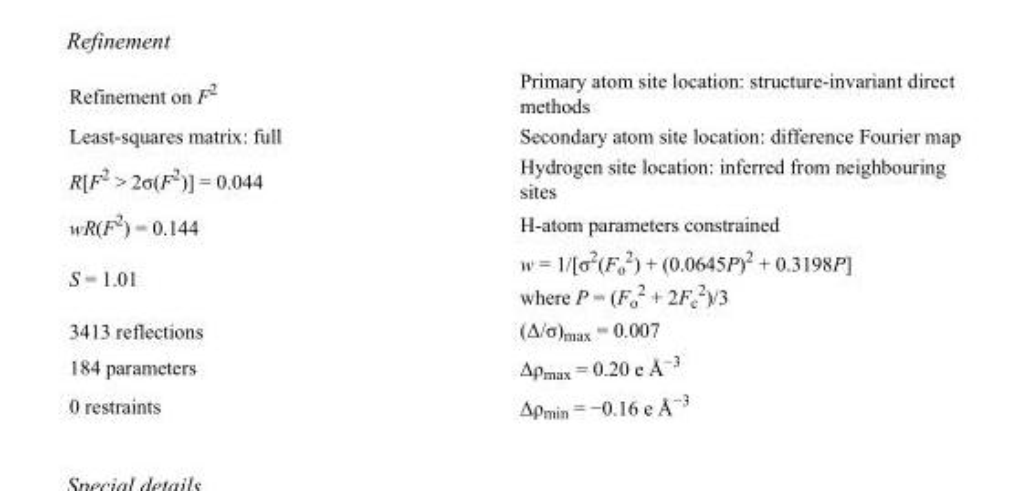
<table><tbody><tr><td>Refinement on F<sup>2</sup></td><td>Primary atom site location: structure-invariant direct methods</td></tr><tr><td>Least-squares matrix: full</td><td>Secondary atom site location: difference Fourier map</td></tr><tr><td>R[F<sup>2</sup> &gt; 2σ(F<sup>2</sup>)] = 0.044</td><td>Hydrogen site location: inferred from neighbouring sites</td></tr><tr><td>wR(F<sup>2</sup>) = 0.144</td><td>H-atom parameters constrained</td></tr><tr><td>S = 1.01</td><td>w = 1/[σ<sup>2</sup>(F<sub>o</sub> <sup>2</sup>) + (0.0645P)<sup>2</sup> + 0.3198P] where P = (F<sub>o</sub> <sup>2</sup> + 2F<sub>c</sub> <sup>2</sup>)/3</td></tr><tr><td>3413 reflections</td><td>(Δ/σ)<sub>max</sub> = 0.007</td></tr><tr><td>184 parameters</td><td>Δρ<sub>max</sub> = 0.20 e Å<sup>−3</sup></td></tr><tr><td>0 restraints</td><td>Δρ<sub>min</sub> = −0.16 e Å<sup>−3</sup></td></tr></tbody></table>